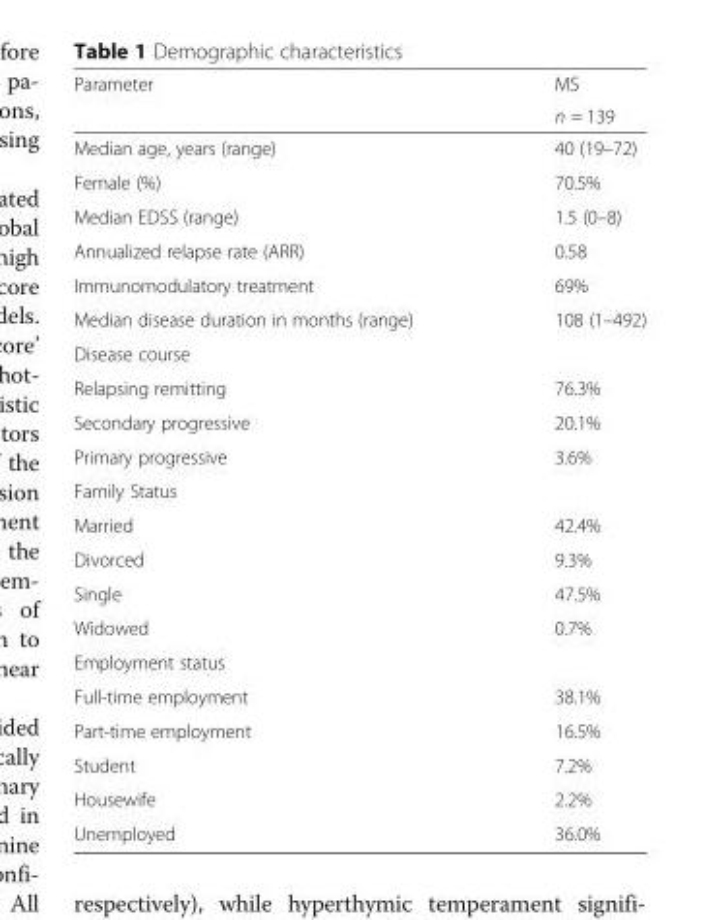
<table><thead><tr><td rowspan="2">Parameter</td><td rowspan="2">MS n = 139</td></tr><tr></tr></thead><tbody><tr><td>Median age, years (range)</td><td>40 (19–72)</td></tr><tr><td>Female (%)</td><td>70.5%</td></tr><tr><td>Median EDSS (range)</td><td>1.5 (0–8)</td></tr><tr><td>Annualized relapse rate (ARR)</td><td>0.58</td></tr><tr><td>Immunomodulatory treatment</td><td>69%</td></tr><tr><td>Median disease duration in months (range)</td><td>108 (1–492)</td></tr><tr><td colspan="2">Disease course</td></tr><tr><td>Relapsing remitting</td><td>76.3%</td></tr><tr><td>Secondary progressive</td><td>20.1%</td></tr><tr><td>Primary progressive</td><td>3.6%</td></tr><tr><td colspan="2">Family Status</td></tr><tr><td>Married</td><td>42.4%</td></tr><tr><td>Divorced</td><td>9.3%</td></tr><tr><td>Single</td><td>47.5%</td></tr><tr><td>Widowed</td><td>0.7%</td></tr><tr><td colspan="2">Employment status</td></tr><tr><td>Full-time employment</td><td>38.1%</td></tr><tr><td>Part-time employment</td><td>16.5%</td></tr><tr><td>Student</td><td>7.2%</td></tr><tr><td>Housewife</td><td>2.2%</td></tr><tr><td>Unemployed</td><td>36.0%</td></tr></tbody></table>